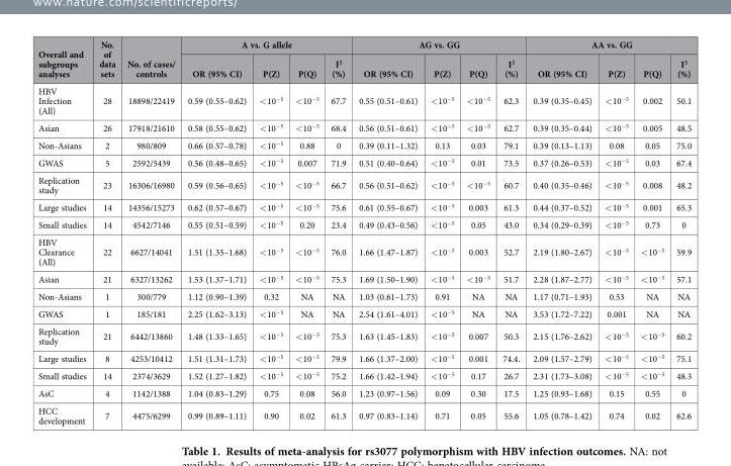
<table><thead><tr><td rowspan="2">Overall and subgroups analyses</td><td rowspan="2">No. of data sets</td><td rowspan="2">No. of cases/ controls</td><td colspan="4">A vs. G allele</td><td colspan="4">AG vs. GG</td><td colspan="4">AA vs. GG</td></tr><tr><td>OR (95% CI)</td><td>P(Z)</td><td>P(Q)</td><td>I<sup>2</sup> (%)</td><td>OR (95% CI)</td><td>P(Z)</td><td>P(Q)</td><td>I<sup>2</sup> (%)</td><td>OR (95% CI)</td><td>P(Z)</td><td>P(Q)</td><td>I<sup>2</sup> (%)</td></tr></thead><tbody><tr><td>HBV Infection (All)</td><td>28</td><td>18898/22419</td><td>0.59 (0.55–0.62)</td><td>&lt; 10<sup>−5</sup></td><td>&lt; 10<sup>−5</sup></td><td>67.7</td><td>0.55 (0.51–0.61)</td><td>&lt; 10<sup>−5</sup></td><td>&lt; 10<sup>−5</sup></td><td>62.3</td><td>0.39 (0.35–0.45)</td><td>&lt; 10<sup>−5</sup></td><td>0.002</td><td>50.1</td></tr><tr><td>Asian</td><td>26</td><td>17918/21610</td><td>0.58 (0.55–0.62)</td><td>&lt; 10<sup>−5</sup></td><td>&lt; 10<sup>−5</sup></td><td>68.4</td><td>0.56 (0.51–0.61)</td><td>&lt; 10<sup>−5</sup></td><td>&lt; 10<sup>−5</sup></td><td>62.7</td><td>0.39 (0.35–0.44)</td><td>&lt; 10<sup>−5</sup></td><td>0.005</td><td>48.5</td></tr><tr><td>Non-Asians</td><td>2</td><td>980/809</td><td>0.66 (0.57–0.78)</td><td>&lt; 10<sup>−5</sup></td><td>0.88</td><td>0</td><td>0.39 (0.11–1.32)</td><td>0.13</td><td>0.03</td><td>79.1</td><td>0.39 (0.13–1.13)</td><td>0.08</td><td>0.05</td><td>75.0</td></tr><tr><td>GWAS</td><td>5</td><td>2592/5439</td><td>0.56 (0.48–0.65)</td><td>&lt; 10<sup>−5</sup></td><td>0.007</td><td>71.9</td><td>0.51 (0.40–0.64)</td><td>&lt; 10<sup>−5</sup></td><td>0.01</td><td>73.5</td><td>0.37 (0.26–0.53)</td><td>&lt; 10<sup>−5</sup></td><td>0.03</td><td>67.4</td></tr><tr><td>Replication study</td><td>23</td><td>16306/16980</td><td>0.59 (0.56–0.65)</td><td>&lt; 10<sup>−5</sup></td><td>&lt; 10<sup>−5</sup></td><td>66.7</td><td>0.56 (0.51–0.62)</td><td>&lt; 10<sup>−5</sup></td><td>&lt; 10<sup>−5</sup></td><td>60.7</td><td>0.40 (0.35–0.46)</td><td>&lt; 10<sup>−5</sup></td><td>0.008</td><td>48.2</td></tr><tr><td>Large studies</td><td>14</td><td>14356/15273</td><td>0.62 (0.57–0.67)</td><td>&lt; 10<sup>−5</sup></td><td>&lt; 10<sup>−5</sup></td><td>75.6</td><td>0.61 (0.55–0.67)</td><td>&lt; 10<sup>−5</sup></td><td>0.003</td><td>61.3</td><td>0.44 (0.37–0.52)</td><td>&lt; 10<sup>−5</sup></td><td>0.001</td><td>65.3</td></tr><tr><td>Small studies</td><td>14</td><td>4542/7146</td><td>0.55 (0.51–0.59)</td><td>&lt; 10<sup>−5</sup></td><td>0.20</td><td>23.4</td><td>0.49 (0.43–0.56)</td><td>&lt; 10<sup>−5</sup></td><td>0.05</td><td>43.0</td><td>0.34 (0.29–0.39)</td><td>&lt; 10<sup>−5</sup></td><td>0.73</td><td>0</td></tr><tr><td>HBV Clearance (All)</td><td>22</td><td>6627/14041</td><td>1.51 (1.35–1.68)</td><td>&lt; 10<sup>−5</sup></td><td>&lt; 10<sup>−5</sup></td><td>76.0</td><td>1.66 (1.47–1.87)</td><td>&lt; 10<sup>−5</sup></td><td>0.003</td><td>52.7</td><td>2.19 (1.80–2.67)</td><td>&lt; 10<sup>−5</sup></td><td>&lt; 10<sup>−5</sup></td><td>59.9</td></tr><tr><td>Asian</td><td>21</td><td>6327/13262</td><td>1.53 (1.37–1.71)</td><td>&lt; 10<sup>−5</sup></td><td>&lt; 10<sup>−5</sup></td><td>75.3</td><td>1.69 (1.50–1.90)</td><td>&lt; 10<sup>−5</sup></td><td>&lt; 10<sup>−5</sup></td><td>51.7</td><td>2.28 (1.87–2.77)</td><td>&lt; 10<sup>−5</sup></td><td>&lt; 10<sup>−5</sup></td><td>57.1</td></tr><tr><td>Non-Asians</td><td>1</td><td>300/779</td><td>1.12 (0.90–1.39)</td><td>0.32</td><td>NA</td><td>NA</td><td>1.03 (0.61–1.73)</td><td>0.91</td><td>NA</td><td>NA</td><td>1.17 (0.71–1.93)</td><td>0.53</td><td>NA</td><td>NA</td></tr><tr><td>GWAS</td><td>1</td><td>185/181</td><td>2.25 (1.62–3.13)</td><td>&lt; 10<sup>−5</sup></td><td>NA</td><td>NA</td><td>2.54 (1.61–4.01)</td><td>&lt; 10<sup>−5</sup></td><td>NA</td><td>NA</td><td>3.53 (1.72–7.22)</td><td>0.001</td><td>NA</td><td>NA</td></tr><tr><td>Replication study</td><td>21</td><td>6442/13860</td><td>1.48 (1.33–1.65)</td><td>&lt; 10<sup>−5</sup></td><td>&lt; 10<sup>−5</sup></td><td>75.3</td><td>1.63 (1.45–1.83)</td><td>&lt; 10<sup>−5</sup></td><td>0.007</td><td>50.3</td><td>2.15 (1.76–2.62)</td><td>&lt; 10<sup>−5</sup></td><td>&lt; 10<sup>−5</sup></td><td>60.2</td></tr><tr><td>Large studies</td><td>8</td><td>4253/10412</td><td>1.51 (1.31–1.73)</td><td>&lt; 10<sup>−5</sup></td><td>&lt; 10<sup>−5</sup></td><td>79.9</td><td>1.66 (1.37–2.00)</td><td>&lt; 10<sup>−5</sup></td><td>0.001</td><td>74.4.</td><td>2.09 (1.57–2.79)</td><td>&lt; 10<sup>−5</sup></td><td>&lt; 10<sup>−5</sup></td><td>75.1</td></tr><tr><td>Small studies</td><td>14</td><td>2374/3629</td><td>1.52 (1.27–1.82)</td><td>&lt; 10<sup>−5</sup></td><td>&lt; 10<sup>−5</sup></td><td>75.2</td><td>1.66 (1.42–1.94)</td><td>&lt; 10<sup>−5</sup></td><td>0.17</td><td>26.7</td><td>2.31 (1.73–3.08)</td><td>&lt; 10<sup>−5</sup></td><td>&lt; 10<sup>−5</sup></td><td>48.3</td></tr><tr><td>AsC</td><td>4</td><td>1142/1388</td><td>1.04 (0.83–1.29)</td><td>0.75</td><td>0.08</td><td>56.0</td><td>1.23 (0.97–1.56)</td><td>0.09</td><td>0.30</td><td>17.5</td><td>1.25 (0.93–1.68)</td><td>0.15</td><td>0.55</td><td>0</td></tr><tr><td>HCC development</td><td>7</td><td>4475/6299</td><td>0.99 (0.89–1.11)</td><td>0.90</td><td>0.02</td><td>61.3</td><td>0.97 (0.83–1.14)</td><td>0.71</td><td>0.05</td><td>55.6</td><td>1.05 (0.78–1.42)</td><td>0.74</td><td>0.02</td><td>62.6</td></tr></tbody></table>